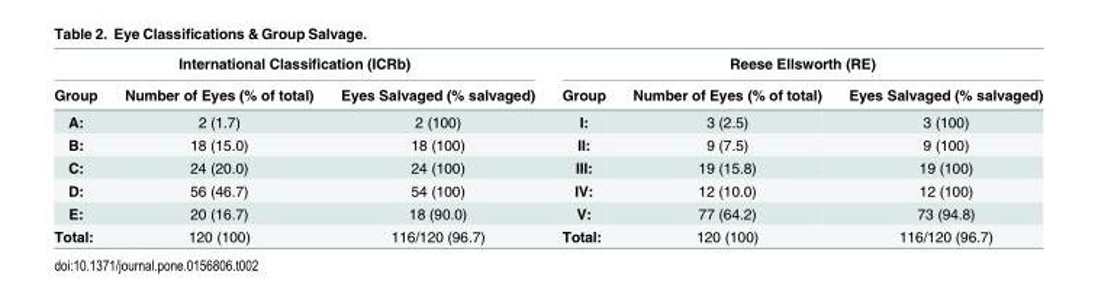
<table><thead><tr><td colspan="3">International Classification (ICRb)</td><td colspan="3">Reese Ellsworth (RE)</td></tr><tr><td>Group</td><td>Number of Eyes (% of total)</td><td>Eyes Salvaged (% salvaged)</td><td>Group</td><td>Number of Eyes (% of total)</td><td>Eyes Salvaged (% salvaged)</td></tr></thead><tbody><tr><td>A:</td><td>2 (1.7)</td><td>2 (100)</td><td>I:</td><td>3 (2.5)</td><td>3 (100)</td></tr><tr><td>B:</td><td>18 (15.0)</td><td>18 (100)</td><td>II:</td><td>9 (7.5)</td><td>9 (100)</td></tr><tr><td>C:</td><td>24 (20.0)</td><td>24 (100)</td><td>III:</td><td>19 (15.8)</td><td>19 (100)</td></tr><tr><td>D:</td><td>56 (46.7)</td><td>54 (100)</td><td>IV:</td><td>12 (10.0)</td><td>12 (100)</td></tr><tr><td>E:</td><td>20 (16.7)</td><td>18 (90.0)</td><td>V:</td><td>77 (64.2)</td><td>73 (94.8)</td></tr><tr><td>Total:</td><td>120 (100)</td><td>116/120 (96.7)</td><td>Total:</td><td>120 (100)</td><td>116/120 (96.7)</td></tr></tbody></table>